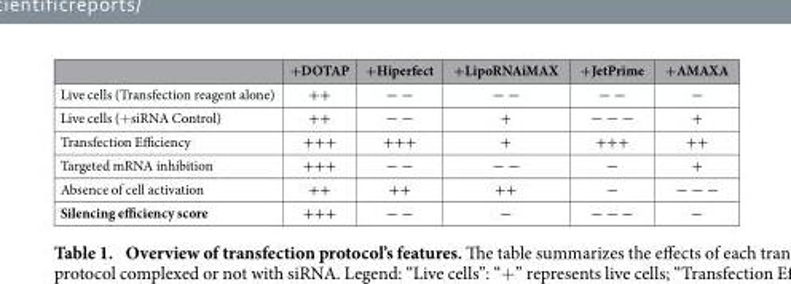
<table><thead><tr><td></td><td>+DOTAP</td><td>+Hiperfect</td><td>+LipoRNAiMAX</td><td>+JetPrime</td><td>+AMAXA</td></tr></thead><tbody><tr><td>Live cells (Transfection reagent alone)</td><td>++</td><td>− −</td><td>− −</td><td>− −</td><td>−</td></tr><tr><td>Live cells (+ siRNA Control)</td><td>++</td><td>− −</td><td>+</td><td>− − −</td><td>+</td></tr><tr><td>Transfection Efficiency</td><td>+++</td><td>+++</td><td>+</td><td>+++</td><td>++</td></tr><tr><td>Targeted mRNA inhibition</td><td>+++</td><td>− −</td><td>− −</td><td>−</td><td>+</td></tr><tr><td>Absence of cell activation</td><td>++</td><td>++</td><td>++</td><td>−</td><td>− − −</td></tr><tr><td>Silencing efficiency score</td><td>+++</td><td>− −</td><td>−</td><td>− − −</td><td>−</td></tr></tbody></table>